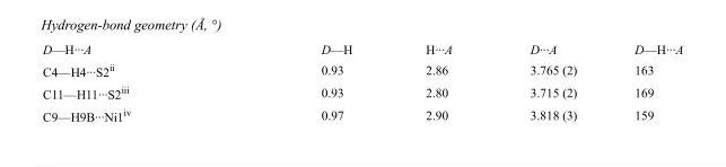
<table><tbody><tr><td>D—H···A</td><td>D—H</td><td>H···A</td><td>D···A</td><td>D—H···A</td></tr><tr><td>C4—H4···S2<sup>ii</sup></td><td>0.93</td><td>2.86</td><td>3.765 (2)</td><td>163</td></tr><tr><td>C11—H11···S2<sup>iii</sup></td><td>0.93</td><td>2.80</td><td>3.715 (2)</td><td>169</td></tr><tr><td>C9—H9B···Ni1<sup>iv</sup></td><td>0.97</td><td>2.90</td><td>3.818 (3)</td><td>159</td></tr></tbody></table>